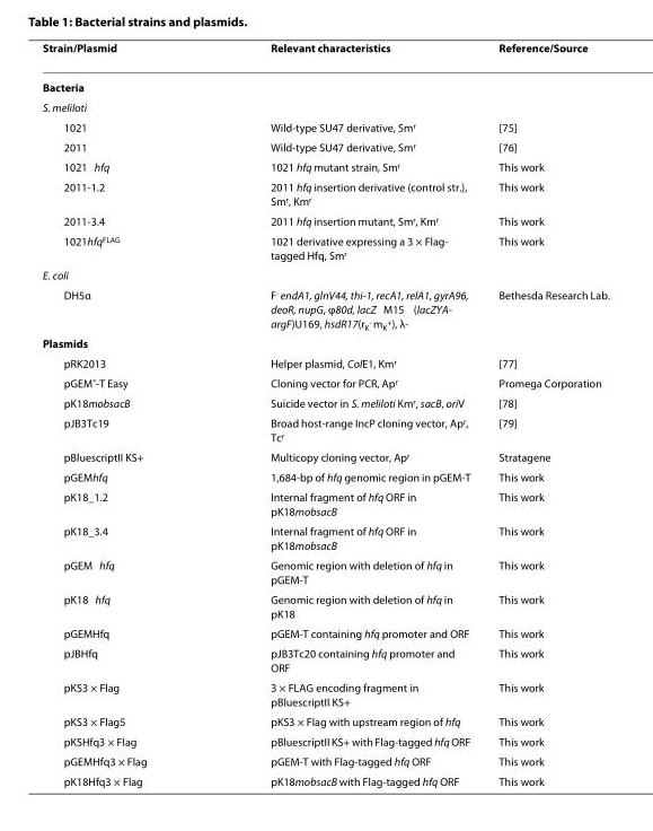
<table><thead><tr><td>Strain/Plasmid</td><td>Relevant characteristics</td><td>Reference/Source</td></tr></thead><tbody><tr><td colspan="3">Bacteria</td></tr><tr><td colspan="3">S. meliloti</td></tr><tr><td>1021</td><td>Wild-type SU47 derivative, Sm<sup>r</sup></td><td>[75]</td></tr><tr><td>2011</td><td>Wild-type SU47 derivative, Sm<sup>r</sup></td><td>[76]</td></tr><tr><td>1021 hfq</td><td>1021 hfq mutant strain, Sm<sup>r</sup></td><td>This work</td></tr><tr><td>2011-1.2</td><td>2011 hfq insertion derivative (control str.), Sm<sup>r</sup>, Km<sup>r</sup></td><td>This work</td></tr><tr><td>2011-3.4</td><td>2011 hfq insertion mutant, Sm<sup>r</sup>, Km<sup>r</sup></td><td>This work</td></tr><tr><td>1021hfq<sup>FLAG</sup></td><td>1021 derivative expressing a 3 × Flag- tagged Hfq, Sm<sup>r</sup></td><td>This work</td></tr><tr><td colspan="3">E. coli</td></tr><tr><td>DH5α</td><td>F- endA1, glnV44, thi-1, recA1, relA1, gyrA96, deoR, nupG, φ80d, lacZ M15 (lacZYA- argF)U169, hsdR17(rK- mK+), λ-</td><td>Bethesda Research Lab.</td></tr><tr><td colspan="3">Plasmids</td></tr><tr><td>pRK2013</td><td>Helper plasmid, ColE1, Km<sup>r</sup></td><td>[77]</td></tr><tr><td>pGEM<sup>®</sup>-T Easy</td><td>Cloning vector for PCR, Ap<sup>r</sup></td><td>Promega Corporation</td></tr><tr><td>pK18mobsacB</td><td>Suicide vector in S. meliloti Km<sup>r</sup>, sacB, oriV</td><td>[78]</td></tr><tr><td>pJB3Tc19</td><td>Broad host-range IncP cloning vector, Ap<sup>r</sup>, Tc<sup>r</sup></td><td>[79]</td></tr><tr><td>pBluescriptII KS+</td><td>Multicopy cloning vector, Ap<sup>r</sup></td><td>Stratagene</td></tr><tr><td>pGEMhfq</td><td>1,684-bp of hfq genomic region in pGEM-T</td><td>This work</td></tr><tr><td>pK18_1.2</td><td>Internal fragment of hfq ORF in pK18mobsacB</td><td>This work</td></tr><tr><td>pK18_3.4</td><td>Internal fragment of hfq ORF in pK18mobsacB</td><td>This work</td></tr><tr><td>pGEM hfq</td><td>Genomic region with deletion of hfq in pGEM-T</td><td>This work</td></tr><tr><td>pK18 hfq</td><td>Genomic region with deletion of hfq in pK18</td><td>This work</td></tr><tr><td>pGEMHfq</td><td>pGEM-T containing hfq promoter and ORF</td><td>This work</td></tr><tr><td>pJBHfq</td><td>pJB3Tc20 containing hfq promoter and ORF</td><td>This work</td></tr><tr><td>pKS3 × Flag</td><td>3 × FLAG encoding fragment in pBluescriptII KS+</td><td>This work</td></tr><tr><td>pKS3 × Flag5</td><td>pKS3 × Flag with upstream region of hfq</td><td>This work</td></tr><tr><td>pKSHfq3 × Flag</td><td>pBluescriptII KS+ with Flag-tagged hfq ORF</td><td>This work</td></tr><tr><td>pGEMHfq3 × Flag</td><td>pGEM-T with Flag-tagged hfq ORF</td><td>This work</td></tr><tr><td>pK18Hfq3 × Flag</td><td>pK18mobsacB with Flag-tagged hfq ORF</td><td>This work</td></tr></tbody></table>